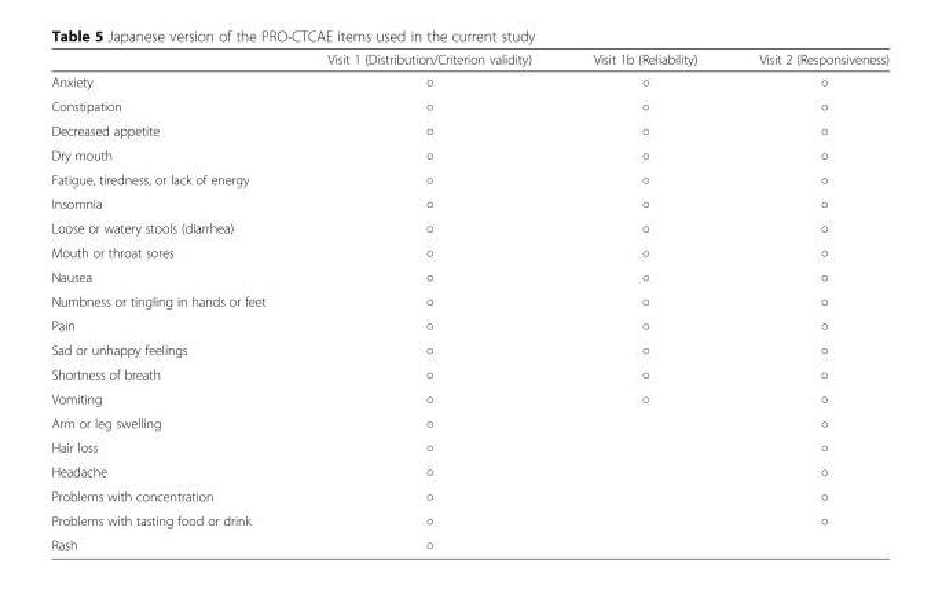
<table><thead><tr><td></td><td>Visit 1 (Distribution/Criterion validity)</td><td>Visit 1b (Reliability)</td><td>Visit 2 (Responsiveness)</td></tr></thead><tbody><tr><td>Anxiety</td><td>○</td><td>○</td><td>○</td></tr><tr><td>Constipation</td><td>○</td><td>○</td><td>○</td></tr><tr><td>Decreased appetite</td><td>○</td><td>○</td><td>○</td></tr><tr><td>Dry mouth</td><td>○</td><td>○</td><td>○</td></tr><tr><td>Fatigue, tiredness, or lack of energy</td><td>○</td><td>○</td><td>○</td></tr><tr><td>Insomnia</td><td>○</td><td>○</td><td>○</td></tr><tr><td>Loose or watery stools (diarrhea)</td><td>○</td><td>○</td><td>○</td></tr><tr><td>Mouth or throat sores</td><td>○</td><td>○</td><td>○</td></tr><tr><td>Nausea</td><td>○</td><td>○</td><td>○</td></tr><tr><td>Numbness or tingling in hands or feet</td><td>○</td><td>○</td><td>○</td></tr><tr><td>Pain</td><td>○</td><td>○</td><td>○</td></tr><tr><td>Sad or unhappy feelings</td><td>○</td><td>○</td><td>○</td></tr><tr><td>Shortness of breath</td><td>○</td><td>○</td><td>○</td></tr><tr><td>Vomiting</td><td>○</td><td>○</td><td>○</td></tr><tr><td>Arm or leg swelling</td><td>○</td><td></td><td>○</td></tr><tr><td>Hair loss</td><td>○</td><td></td><td>○</td></tr><tr><td>Headache</td><td>○</td><td></td><td>○</td></tr><tr><td>Problems with concentration</td><td>○</td><td></td><td>○</td></tr><tr><td>Problems with tasting food or drink</td><td>○</td><td></td><td>○</td></tr><tr><td>Rash</td><td>○</td><td></td><td></td></tr></tbody></table>